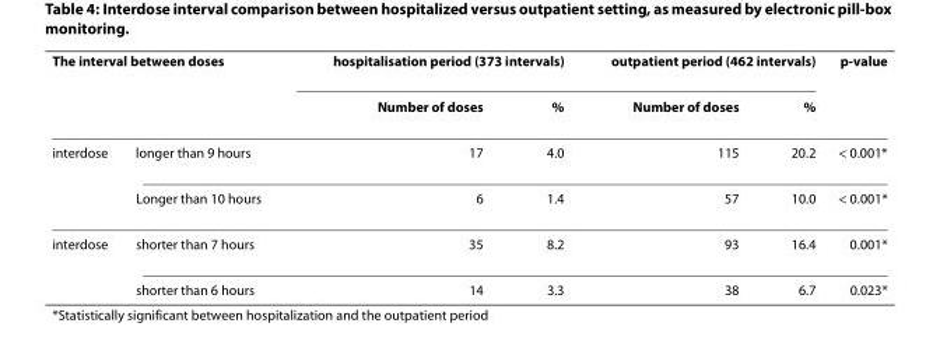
<table><thead><tr><td colspan="2">The interval between doses</td><td colspan="2">hospitalisation period (373 intervals)</td><td colspan="2">outpatient period (462 intervals)</td><td rowspan="2">p-value</td></tr><tr><td></td><td></td><td>Number of doses</td><td>%</td><td>Number of doses</td><td>%</td></tr></thead><tbody><tr><td rowspan="2">interdose</td><td>longer than 9 hours</td><td>17</td><td>4.0</td><td>115</td><td>20.2</td><td>&lt; 0.001*</td></tr><tr><td>Longer than 10 hours</td><td>6</td><td>1.4</td><td>57</td><td>10.0</td><td>&lt; 0.001*</td></tr><tr><td rowspan="2">interdose</td><td>shorter than 7 hours</td><td>35</td><td>8.2</td><td>93</td><td>16.4</td><td>0.001*</td></tr><tr><td>shorter than 6 hours</td><td>14</td><td>3.3</td><td>38</td><td>6.7</td><td>0.023*</td></tr></tbody></table>